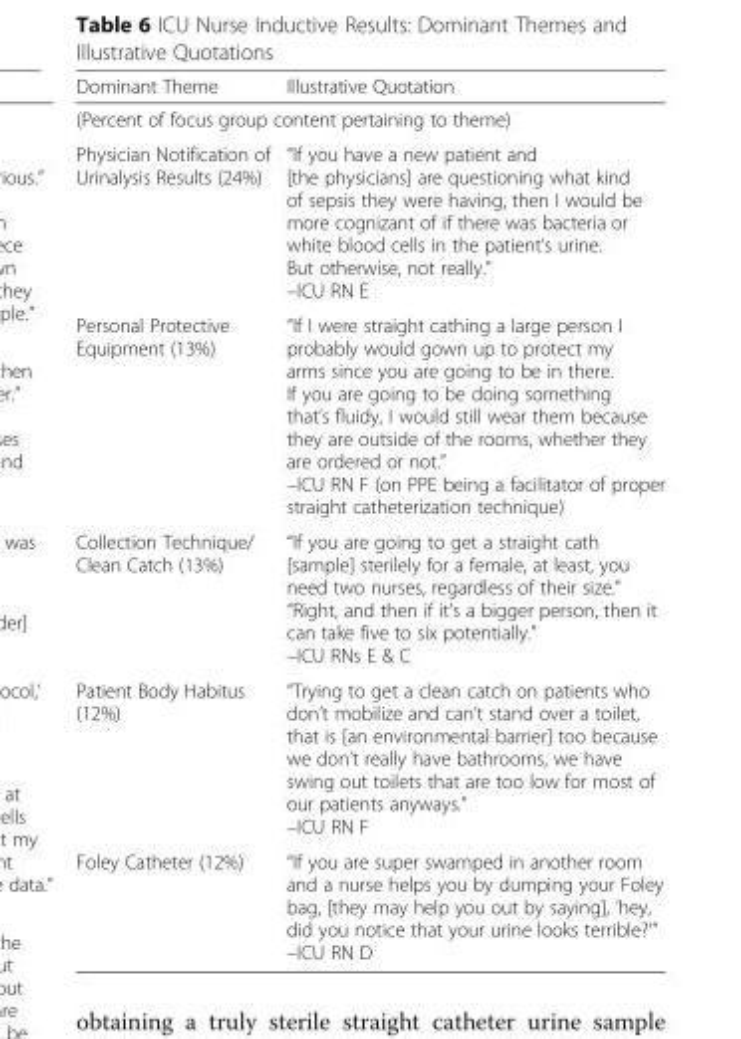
<table><thead><tr><td>Dominant Theme</td><td>Illustrative Quotation</td></tr></thead><tbody><tr><td colspan="2">(Percent of focus group content pertaining to theme)</td></tr><tr><td>Physician Notification of Urinalysis Results (24%)</td><td>“If you have a new patient and [the physicians] are questioning what kind of sepsis they were having, then I would be more cognizant of if there was bacteria or white blood cells in the patient’s urine. But otherwise, not really.” –ICU RN E</td></tr><tr><td>Personal Protective Equipment (13%)</td><td>“If I were straight cathing a large person I probably would gown up to protect my arms since you are going to be in there. If you are going to be doing something that’s fluidy, I would still wear them because they are outside of the rooms, whether they are ordered or not.” –ICU RN F (on PPE being a facilitator of proper straight catheterization technique)</td></tr><tr><td>Collection Technique/ Clean Catch (13%)</td><td>“If you are going to get a straight cath [sample] sterilely for a female, at least, you need two nurses, regardless of their size.” “Right, and then if it’s a bigger person, then it can take five to six potentially.” –ICU RNs E &amp; C</td></tr><tr><td>Patient Body Habitus (12%)</td><td>“Trying to get a clean catch on patients who don’t mobilize and can’t stand over a toilet, that is [an environmental barrier] too because we don’t really have bathrooms, we have swing out toilets that are too low for most of our patients anyways.” –ICU RN F</td></tr><tr><td>Foley Catheter (12%)</td><td>“If you are super swamped in another room and a nurse helps you by dumping your Foley bag, [they may help you out by saying], ‘hey, did you notice that your urine looks terrible?’” –ICU RN D</td></tr></tbody></table>